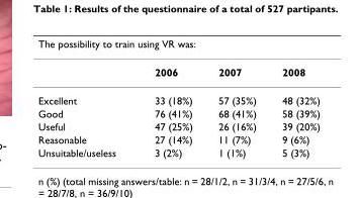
<table><thead><tr><td colspan="4">The possibility to train using VR was:</td></tr><tr><td></td><td>2006</td><td>2007</td><td>2008</td></tr></thead><tbody><tr><td>Excellent</td><td>33 (18%)</td><td>57 (35%)</td><td>48 (32%)</td></tr><tr><td>Good</td><td>76 (41%)</td><td>68 (41%)</td><td>58 (39%)</td></tr><tr><td>Useful</td><td>47 (25%)</td><td>26 (16%)</td><td>39 (20%)</td></tr><tr><td>Reasonable</td><td>27 (14%)</td><td>11 (7%)</td><td>9 (6%)</td></tr><tr><td>Unsuitable/useless</td><td>3 (2%)</td><td>1 (1%)</td><td>5 (3%)</td></tr></tbody></table>